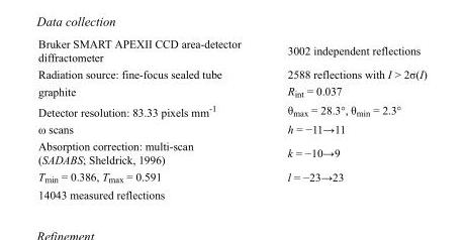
<table><tbody><tr><td>Bruker SMART APEXII CCD area-detector diffractometer</td><td>3002 independent reflections</td></tr><tr><td>Radiation source: fine-focus sealed tube</td><td>2588 reflections with I &gt; 2σ(I)</td></tr><tr><td>graphite</td><td>R<sub>int</sub> = 0.037</td></tr><tr><td>Detector resolution: 83.33 pixels mm<sup>-1</sup></td><td>θ<sub>max</sub> = 28.3°, θ<sub>min</sub> = 2.3°</td></tr><tr><td>ω scans</td><td>h = −11→11</td></tr><tr><td>Absorption correction: multi-scan (SADABS; Sheldrick, 1996)</td><td>k = −10→9</td></tr><tr><td>T<sub>min</sub> = 0.386, T<sub>max</sub> = 0.591</td><td>l = −23→23</td></tr><tr><td>14043 measured reflections</td><td></td></tr></tbody></table>